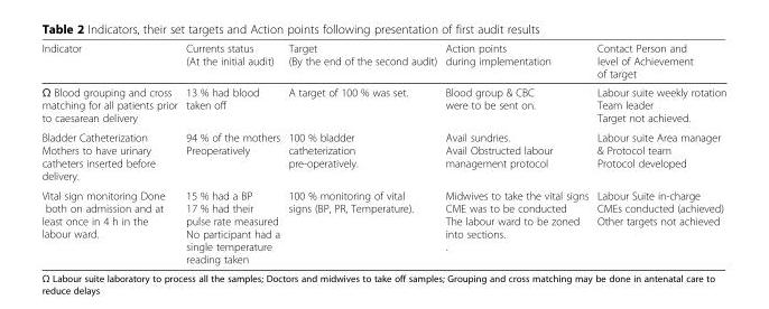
<table><thead><tr><td>Indicator</td><td>Currents status (At the initial audit)</td><td>Target (By the end of the second audit)</td><td>Action points during implementation</td><td>Contact Person and level of Achievement of target</td></tr></thead><tbody><tr><td>Ω Blood grouping and cross matching for all patients prior to caesarean delivery</td><td>13 % had blood taken off</td><td>A target of 100 % was set.</td><td>Blood group &amp; CBC were to be sent on.</td><td>Labour suite weekly rotation Team leader Target not achieved.</td></tr><tr><td>Bladder Catheterization Mothers to have urinary catheters inserted before delivery.</td><td>94 % of the mothers Preoperatively</td><td>100 % bladder catheterization pre-operatively.</td><td>Avail sundries. Avail Obstructed labour management protocol</td><td>Labour suite Area manager &amp; Protocol team Protocol developed</td></tr><tr><td>Vital sign monitoring Done both on admission and at least once in 4 h in the labour ward.</td><td>15 % had a BP 17 % had their pulse rate measured No participant had a single temperature reading taken</td><td>100 % monitoring of vital signs (BP, PR, Temperature).</td><td>Midwives to take the vital signs CME was to be conducted The labour ward to be zoned into sections. .</td><td>Labour Suite in-charge CMEs conducted (achieved) Other targets not achieved</td></tr></tbody></table>